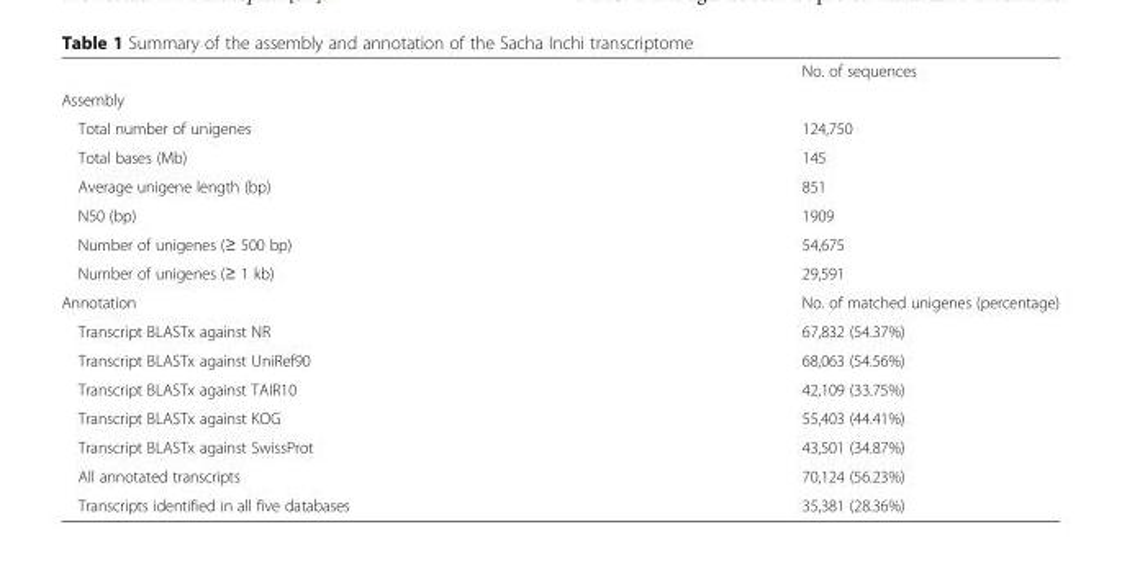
<table><thead><tr><td></td><td>No. of sequences</td></tr></thead><tbody><tr><td colspan="2">Assembly</td></tr><tr><td>Total number of unigenes</td><td>124,750</td></tr><tr><td>Total bases (Mb)</td><td>145</td></tr><tr><td>Average unigene length (bp)</td><td>851</td></tr><tr><td>N50 (bp)</td><td>1909</td></tr><tr><td>Number of unigenes (≥ 500 bp)</td><td>54,675</td></tr><tr><td>Number of unigenes (≥ 1 kb)</td><td>29,591</td></tr><tr><td>Annotation</td><td>No. of matched unigenes (percentage)</td></tr><tr><td>Transcript BLASTx against NR</td><td>67,832 (54.37%)</td></tr><tr><td>Transcript BLASTx against UniRef90</td><td>68,063 (54.56%)</td></tr><tr><td>Transcript BLASTx against TAIR10</td><td>42,109 (33.75%)</td></tr><tr><td>Transcript BLASTx against KOG</td><td>55,403 (44.41%)</td></tr><tr><td>Transcript BLASTx against SwissProt</td><td>43,501 (34.87%)</td></tr><tr><td>All annotated transcripts</td><td>70,124 (56.23%)</td></tr><tr><td>Transcripts identified in all five databases</td><td>35,381 (28.36%)</td></tr></tbody></table>